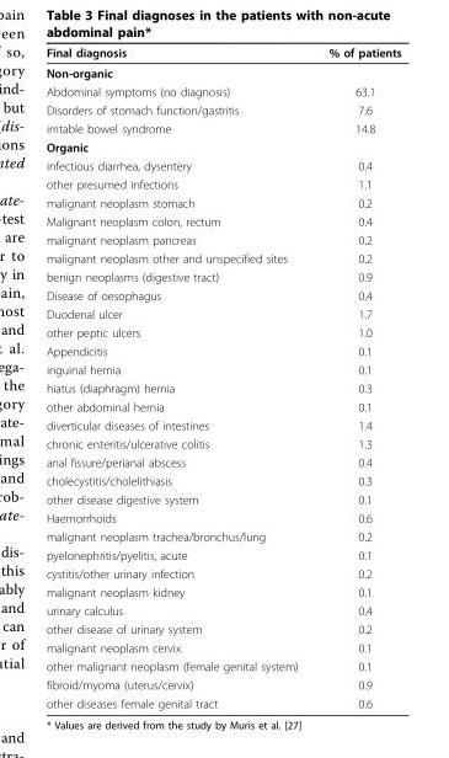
<table><thead><tr><td>Final diagnosis</td><td>% of patients</td></tr></thead><tbody><tr><td colspan="2">Non-organic</td></tr><tr><td>Abdominal symptoms (no diagnosis)</td><td>63.1</td></tr><tr><td>Disorders of stomach function/gastritis</td><td>7.6</td></tr><tr><td>irritable bowel syndrome</td><td>14.8</td></tr><tr><td colspan="2">Organic</td></tr><tr><td>infectious diarrhea, dysentery</td><td>0.4</td></tr><tr><td>other presumed infections</td><td>1.1</td></tr><tr><td>malignant neoplasm stomach</td><td>0.2</td></tr><tr><td>Malignant neoplasm colon, rectum</td><td>0.4</td></tr><tr><td>malignant neoplasm pancreas</td><td>0.2</td></tr><tr><td>malignant neoplasm other and unspecified sites</td><td>0.2</td></tr><tr><td>benign neoplasms (digestive tract)</td><td>0.9</td></tr><tr><td>Disease of oesophagus</td><td>0.4</td></tr><tr><td>Duodenal ulcer</td><td>1.7</td></tr><tr><td>other peptic ulcers</td><td>1.0</td></tr><tr><td>Appendicitis</td><td>0.1</td></tr><tr><td>inguinal hernia</td><td>0.1</td></tr><tr><td>hiatus (diaphragm) hernia</td><td>0.3</td></tr><tr><td>other abdominal hernia</td><td>0.1</td></tr><tr><td>diverticular diseases of intestines</td><td>1.4</td></tr><tr><td>chronic enteritis/ulcerative colitis</td><td>1.3</td></tr><tr><td>anal fissure/perianal abscess</td><td>0.4</td></tr><tr><td>cholecystitis/cholelithiasis</td><td>0.3</td></tr><tr><td>other disease digestive system</td><td>0.1</td></tr><tr><td>Haemorrhoids</td><td>0.6</td></tr><tr><td>malignant neoplasm trachea/bronchus/lung</td><td>0.2</td></tr><tr><td>pyelonephritis/pyelitis, acute</td><td>0.1</td></tr><tr><td>cystitis/other urinary infection</td><td>0.2</td></tr><tr><td>malignant neoplasm kidney</td><td>0.1</td></tr><tr><td>urinary calculus</td><td>0.4</td></tr><tr><td>other disease of urinary system</td><td>0.2</td></tr><tr><td>malignant neoplasm cervix</td><td>0.1</td></tr><tr><td>other malignant neoplasm (female genital system)</td><td>0.1</td></tr><tr><td>fibroid/myoma (uterus/cervix)</td><td>0.9</td></tr><tr><td>other diseases female genital tract</td><td>0.6</td></tr></tbody></table>